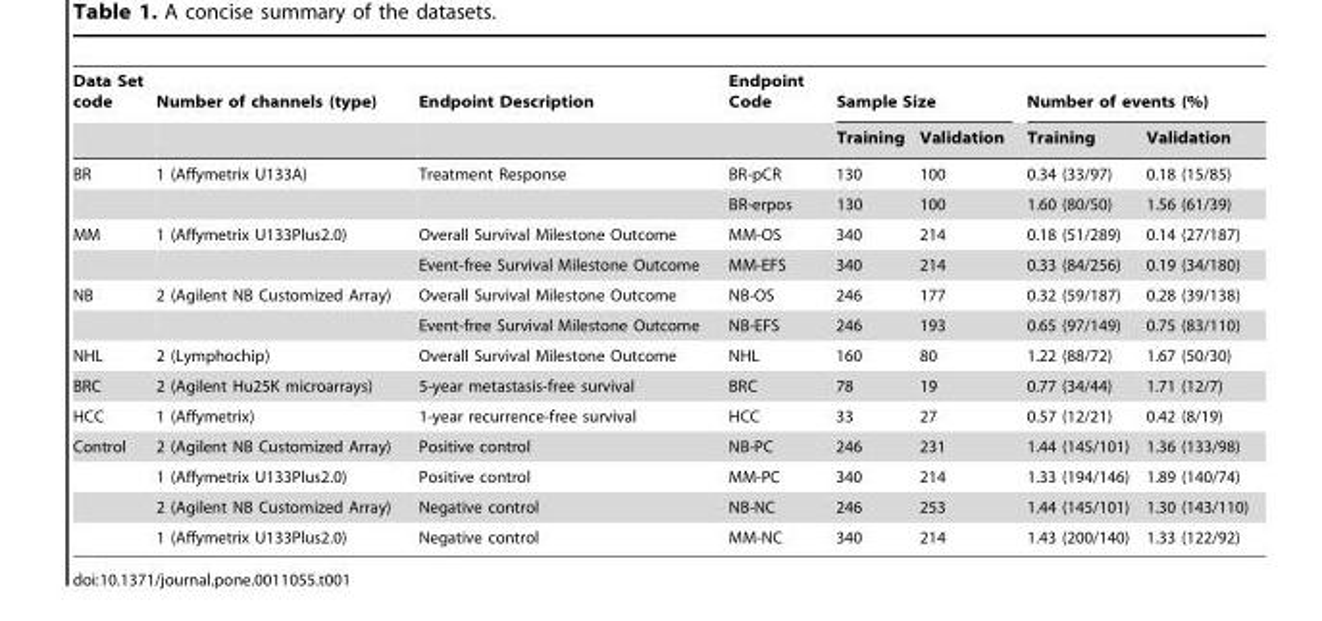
<table><thead><tr><td rowspan="2">Data Set code</td><td rowspan="2">Number of channels (type)</td><td rowspan="2">Endpoint Description</td><td rowspan="2">Endpoint Code</td><td colspan="2">Sample Size</td><td colspan="2">Number of events (%)</td></tr><tr><td>Training</td><td>Validation</td><td>Training</td><td>Validation</td></tr></thead><tbody><tr><td rowspan="2">BR</td><td>1 (Affymetrix U133A)</td><td>Treatment Response</td><td>BR-pCR</td><td>130</td><td>100</td><td>0.34 (33/97)</td><td>0.18 (15/85)</td></tr><tr><td></td><td></td><td>BR-erpos</td><td>130</td><td>100</td><td>1.60 (80/50)</td><td>1.56 (61/39)</td></tr><tr><td rowspan="2">MM</td><td>1 (Affymetrix U133Plus2.0)</td><td>Overall Survival Milestone Outcome</td><td>MM-OS</td><td>340</td><td>214</td><td>0.18 (51/289)</td><td>0.14 (27/187)</td></tr><tr><td></td><td>Event-free Survival Milestone Outcome</td><td>MM-EFS</td><td>340</td><td>214</td><td>0.33 (84/256)</td><td>0.19 (34/180)</td></tr><tr><td rowspan="2">NB</td><td>2 (Agilent NB Customized Array)</td><td>Overall Survival Milestone Outcome</td><td>NB-OS</td><td>246</td><td>177</td><td>0.32 (59/187)</td><td>0.28 (39/138)</td></tr><tr><td></td><td>Event-free Survival Milestone Outcome</td><td>NB-EFS</td><td>246</td><td>193</td><td>0.65 (97/149)</td><td>0.75 (83/110)</td></tr><tr><td>NHL</td><td>2 (Lymphochip)</td><td>Overall Survival Milestone Outcome</td><td>NHL</td><td>160</td><td>80</td><td>1.22 (88/72)</td><td>1.67 (50/30)</td></tr><tr><td>BRC</td><td>2 (Agilent Hu25K microarrays)</td><td>5-year metastasis-free survival</td><td>BRC</td><td>78</td><td>19</td><td>0.77 (34/44)</td><td>1.71 (12/7)</td></tr><tr><td>HCC</td><td>1 (Affymetrix)</td><td>1-year recurrence-free survival</td><td>HCC</td><td>33</td><td>27</td><td>0.57 (12/21)</td><td>0.42 (8/19)</td></tr><tr><td rowspan="4">Control</td><td>2 (Agilent NB Customized Array)</td><td>Positive control</td><td>NB-PC</td><td>246</td><td>231</td><td>1.44 (145/101)</td><td>1.36 (133/98)</td></tr><tr><td>1 (Affymetrix U133Plus2.0)</td><td>Positive control</td><td>MM-PC</td><td>340</td><td>214</td><td>1.33 (194/146)</td><td>1.89 (140/74)</td></tr><tr><td>2 (Agilent NB Customized Array)</td><td>Negative control</td><td>NB-NC</td><td>246</td><td>253</td><td>1.44 (145/101)</td><td>1.30 (143/110)</td></tr><tr><td>1 (Affymetrix U133Plus2.0)</td><td>Negative control</td><td>MM-NC</td><td>340</td><td>214</td><td>1.43 (200/140)</td><td>1.33 (122/92)</td></tr></tbody></table>